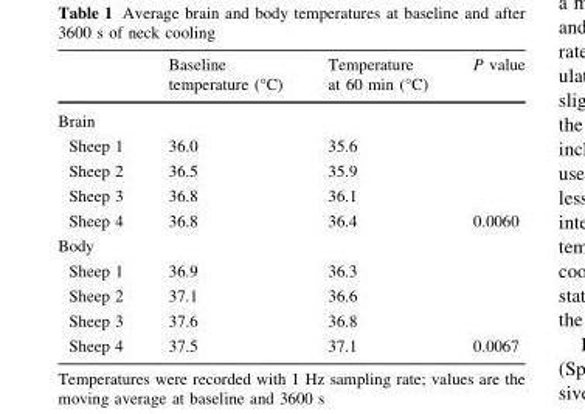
<table><thead><tr><td></td><td>Baseline temperature (°C)</td><td>Temperature at 60 min (°C)</td><td>P value</td></tr></thead><tbody><tr><td colspan="4">Brain</td></tr><tr><td>Sheep 1</td><td>36.0</td><td>35.6</td><td></td></tr><tr><td>Sheep 2</td><td>36.5</td><td>35.9</td><td></td></tr><tr><td>Sheep 3</td><td>36.8</td><td>36.1</td><td></td></tr><tr><td>Sheep 4</td><td>36.8</td><td>36.4</td><td>0.0060</td></tr><tr><td colspan="4">Body</td></tr><tr><td>Sheep 1</td><td>36.9</td><td>36.3</td><td></td></tr><tr><td>Sheep 2</td><td>37.1</td><td>36.6</td><td></td></tr><tr><td>Sheep 3</td><td>37.6</td><td>36.8</td><td></td></tr><tr><td>Sheep 4</td><td>37.5</td><td>37.1</td><td>0.0067</td></tr></tbody></table>